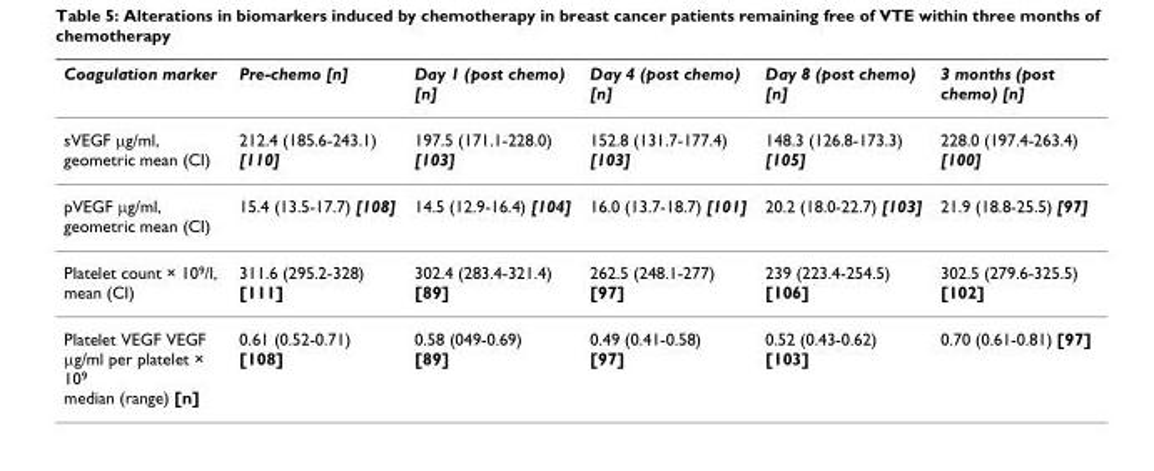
<table><thead><tr><td>Coagulation marker</td><td>Pre-chemo [n]</td><td>Day 1 (post chemo) [n]</td><td>Day 4 (post chemo) [n]</td><td>Day 8 (post chemo) [n]</td><td>3 months (post chemo) [n]</td></tr></thead><tbody><tr><td>sVEGF μg/ml, geometric mean (CI)</td><td>212.4 (185.6-243.1) [110]</td><td>197.5 (171.1-228.0) [103]</td><td>152.8 (131.7-177.4) [103]</td><td>148.3 (126.8-173.3) [105]</td><td>228.0 (197.4-263.4) [100]</td></tr><tr><td>pVEGF μg/ml, geometric mean (CI)</td><td>15.4 (13.5-17.7) [108]</td><td>14.5 (12.9-16.4) [104]</td><td>16.0 (13.7-18.7) [101]</td><td>20.2 (18.0-22.7) [103]</td><td>21.9 (18.8-25.5) [97]</td></tr><tr><td>Platelet count × 10<sup>9</sup>/l, mean (CI)</td><td>311.6 (295.2-328) [111]</td><td>302.4 (283.4-321.4) [89]</td><td>262.5 (248.1-277) [97]</td><td>239 (223.4-254.5) [106]</td><td>302.5 (279.6-325.5) [102]</td></tr><tr><td>Platelet VEGF VEGF μg/ml per platelet × 10<sup>9</sup> median (range) [n]</td><td>0.61 (0.52-0.71) [108]</td><td>0.58 (049-0.69) [89]</td><td>0.49 (0.41-0.58) [97]</td><td>0.52 (0.43-0.62) [103]</td><td>0.70 (0.61-0.81) [97]</td></tr></tbody></table>